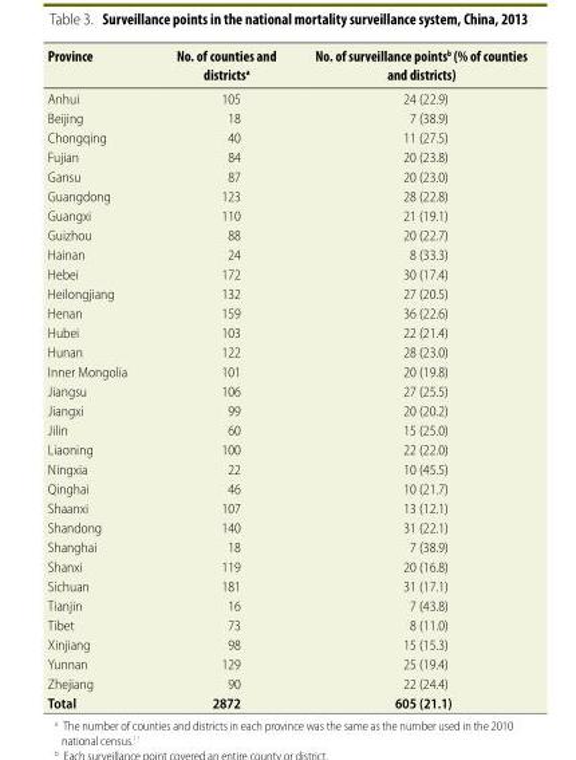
<table><thead><tr><td>Province</td><td>No. of counties and districts<sup>a</sup></td><td>No. of surveillance points<sup>b</sup> (% of counties and districts)</td></tr></thead><tbody><tr><td>Anhui</td><td>105</td><td>24 (22.9)</td></tr><tr><td>Beijing</td><td>18</td><td>7 (38.9)</td></tr><tr><td>Chongqing</td><td>40</td><td>11 (27.5)</td></tr><tr><td>Fujian</td><td>84</td><td>20 (23.8)</td></tr><tr><td>Gansu</td><td>87</td><td>20 (23.0)</td></tr><tr><td>Guangdong</td><td>123</td><td>28 (22.8)</td></tr><tr><td>Guangxi</td><td>110</td><td>21 (19.1)</td></tr><tr><td>Guizhou</td><td>88</td><td>20 (22.7)</td></tr><tr><td>Hainan</td><td>24</td><td>8 (33.3)</td></tr><tr><td>Hebei</td><td>172</td><td>30 (17.4)</td></tr><tr><td>Heilongjiang</td><td>132</td><td>27 (20.5)</td></tr><tr><td>Henan</td><td>159</td><td>36 (22.6)</td></tr><tr><td>Hubei</td><td>103</td><td>22 (21.4)</td></tr><tr><td>Hunan</td><td>122</td><td>28 (23.0)</td></tr><tr><td>Inner Mongolia</td><td>101</td><td>20 (19.8)</td></tr><tr><td>Jiangsu</td><td>106</td><td>27 (25.5)</td></tr><tr><td>Jiangxi</td><td>99</td><td>20 (20.2)</td></tr><tr><td>Jilin</td><td>60</td><td>15 (25.0)</td></tr><tr><td>Liaoning</td><td>100</td><td>22 (22.0)</td></tr><tr><td>Ningxia</td><td>22</td><td>10 (45.5)</td></tr><tr><td>Qinghai</td><td>46</td><td>10 (21.7)</td></tr><tr><td>Shaanxi</td><td>107</td><td>13 (12.1)</td></tr><tr><td>Shandong</td><td>140</td><td>31 (22.1)</td></tr><tr><td>Shanghai</td><td>18</td><td>7 (38.9)</td></tr><tr><td>Shanxi</td><td>119</td><td>20 (16.8)</td></tr><tr><td>Sichuan</td><td>181</td><td>31 (17.1)</td></tr><tr><td>Tianjin</td><td>16</td><td>7 (43.8)</td></tr><tr><td>Tibet</td><td>73</td><td>8 (11.0)</td></tr><tr><td>Xinjiang</td><td>98</td><td>15 (15.3)</td></tr><tr><td>Yunnan</td><td>129</td><td>25 (19.4)</td></tr><tr><td>Zhejiang</td><td>90</td><td>22 (24.4)</td></tr><tr><td>Total</td><td>2872</td><td>605 (21.1)</td></tr></tbody></table>